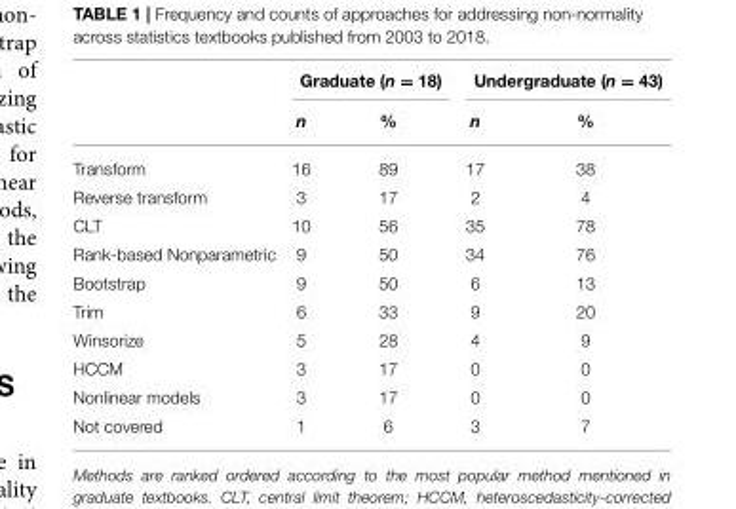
<table><thead><tr><td rowspan="2"></td><td colspan="2">Graduate (n = 18)</td><td colspan="2">Undergraduate (n = 43)</td></tr><tr><td>n</td><td>%</td><td>n</td><td>%</td></tr></thead><tbody><tr><td>Transform</td><td>16</td><td>89</td><td>17</td><td>38</td></tr><tr><td>Reverse transform</td><td>3</td><td>17</td><td>2</td><td>4</td></tr><tr><td>CLT</td><td>10</td><td>56</td><td>35</td><td>78</td></tr><tr><td>Rank-based Nonparametric</td><td>9</td><td>50</td><td>34</td><td>76</td></tr><tr><td>Bootstrap</td><td>9</td><td>50</td><td>6</td><td>13</td></tr><tr><td>Trim</td><td>6</td><td>33</td><td>9</td><td>20</td></tr><tr><td>Winsorize</td><td>5</td><td>28</td><td>4</td><td>9</td></tr><tr><td>HCCM</td><td>3</td><td>17</td><td>0</td><td>0</td></tr><tr><td>Nonlinear models</td><td>3</td><td>17</td><td>0</td><td>0</td></tr><tr><td>Not covered</td><td>1</td><td>6</td><td>3</td><td>7</td></tr></tbody></table>